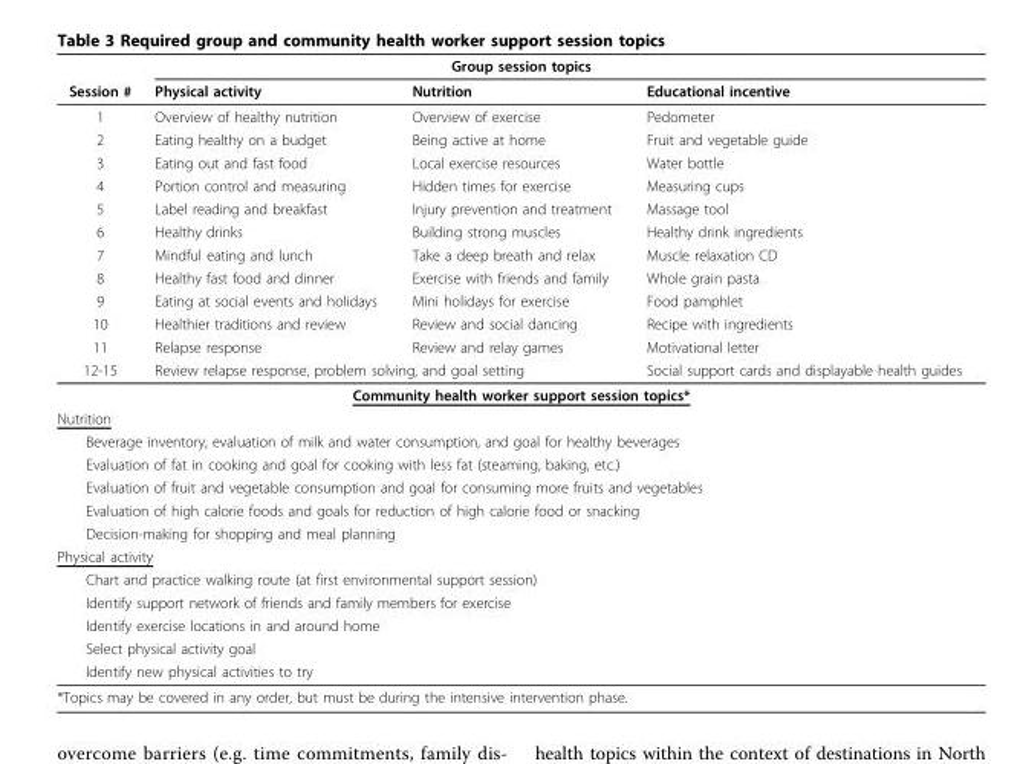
<table><thead><tr><td colspan="4">Group session topics</td></tr><tr><td>Session #</td><td>Physical activity</td><td>Nutrition</td><td>Educational incentive</td></tr></thead><tbody><tr><td>1</td><td>Overview of healthy nutrition</td><td>Overview of exercise</td><td>Pedometer</td></tr><tr><td>2</td><td>Eating healthy on a budget</td><td>Being active at home</td><td>Fruit and vegetable guide</td></tr><tr><td>3</td><td>Eating out and fast food</td><td>Local exercise resources</td><td>Water bottle</td></tr><tr><td>4</td><td>Portion control and measuring</td><td>Hidden times for exercise</td><td>Measuring cups</td></tr><tr><td>5</td><td>Label reading and breakfast</td><td>Injury prevention and treatment</td><td>Massage tool</td></tr><tr><td>6</td><td>Healthy drinks</td><td>Building strong muscles</td><td>Healthy drink ingredients</td></tr><tr><td>7</td><td>Mindful eating and lunch</td><td>Take a deep breath and relax</td><td>Muscle relaxation CD</td></tr><tr><td>8</td><td>Healthy fast food and dinner</td><td>Exercise with friends and family</td><td>Whole grain pasta</td></tr><tr><td>9</td><td>Eating at social events and holidays</td><td>Mini holidays for exercise</td><td>Food pamphlet</td></tr><tr><td>10</td><td>Healthier traditions and review</td><td>Review and social dancing</td><td>Recipe with ingredients</td></tr><tr><td>11</td><td>Relapse response</td><td>Review and relay games</td><td>Motivational letter</td></tr><tr><td>12-15</td><td colspan="2">Review relapse response, problem solving, and goal setting</td><td>Social support cards and displayable health guides</td></tr><tr><td colspan="4">Community health worker support session topics*</td></tr><tr><td colspan="4">Nutrition</td></tr><tr><td colspan="4">Beverage inventory, evaluation of milk and water consumption, and goal for healthy beverages</td></tr><tr><td colspan="4">Evaluation of fat in cooking and goal for cooking with less fat (steaming, baking, etc.)</td></tr><tr><td colspan="4">Evaluation of fruit and vegetable consumption and goal for consuming more fruits and vegetables</td></tr><tr><td colspan="4">Evaluation of high calorie foods and goals for reduction of high calorie food or snacking</td></tr><tr><td colspan="4">Decision-making for shopping and meal planning</td></tr><tr><td colspan="4">Physical activity</td></tr><tr><td colspan="4">Chart and practice walking route (at first environmental support session)</td></tr><tr><td colspan="4">Identify support network of friends and family members for exercise</td></tr><tr><td colspan="4">Identify exercise locations in and around home</td></tr><tr><td colspan="4">Select physical activity goal</td></tr><tr><td colspan="4">Identify new physical activities to try</td></tr><tr><td colspan="4">*Topics may be covered in any order, but must be during the intensive intervention phase.</td></tr></tbody></table>